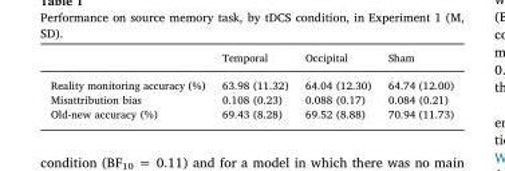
<table><thead><tr><td></td><td>Temporal</td><td>Occipital</td><td>Sham</td></tr></thead><tbody><tr><td>Reality monitoring accuracy (%)</td><td>63.98 (11.32)</td><td>64.04 (12.30)</td><td>64.74 (12.00)</td></tr><tr><td>Misattribution bias</td><td>0.108 (0.23)</td><td>0.088 (0.17)</td><td>0.084 (0.21)</td></tr><tr><td>Old-new accuracy (%)</td><td>69.43 (8.28)</td><td>69.52 (8.88)</td><td>70.94 (11.73)</td></tr></tbody></table>